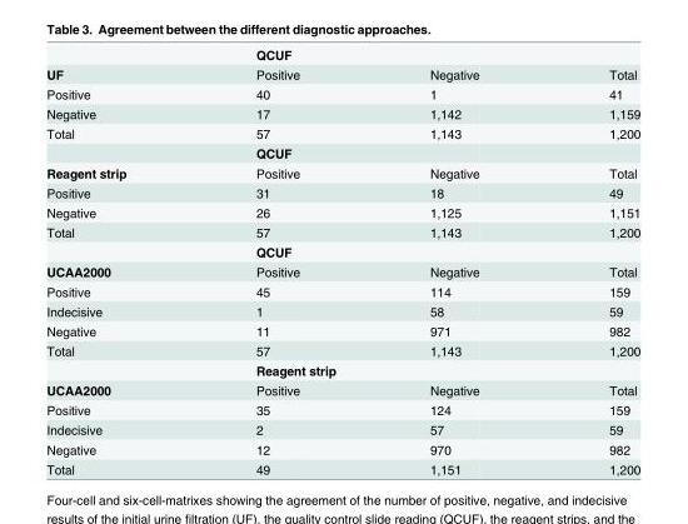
<table><thead><tr><td></td><td>QCUF</td><td></td><td></td></tr></thead><tbody><tr><td>UF</td><td>Positive</td><td>Negative</td><td>Total</td></tr><tr><td>Positive</td><td>40</td><td>1</td><td>41</td></tr><tr><td>Negative</td><td>17</td><td>1,142</td><td>1,159</td></tr><tr><td rowspan="2">Total</td><td>57</td><td>1,143</td><td>1,200</td></tr><tr><td>QCUF</td><td></td><td></td></tr><tr><td>Reagent strip</td><td>Positive</td><td>Negative</td><td>Total</td></tr><tr><td>Positive</td><td>31</td><td>18</td><td>49</td></tr><tr><td>Negative</td><td>26</td><td>1,125</td><td>1,151</td></tr><tr><td rowspan="2">Total</td><td>57</td><td>1,143</td><td>1,200</td></tr><tr><td>QCUF</td><td></td><td></td></tr><tr><td>UCAA2000</td><td>Positive</td><td>Negative</td><td>Total</td></tr><tr><td>Positive</td><td>45</td><td>114</td><td>159</td></tr><tr><td>Indecisive</td><td>1</td><td>58</td><td>59</td></tr><tr><td>Negative</td><td>11</td><td>971</td><td>982</td></tr><tr><td rowspan="2">Total</td><td>57</td><td>1,143</td><td>1,200</td></tr><tr><td colspan="2">Reagent strip</td><td></td></tr><tr><td>UCAA2000</td><td>Positive</td><td>Negative</td><td>Total</td></tr><tr><td>Positive</td><td>35</td><td>124</td><td>159</td></tr><tr><td>Indecisive</td><td>2</td><td>57</td><td>59</td></tr><tr><td>Negative</td><td>12</td><td>970</td><td>982</td></tr><tr><td>Total</td><td>49</td><td>1,151</td><td>1,200</td></tr></tbody></table>